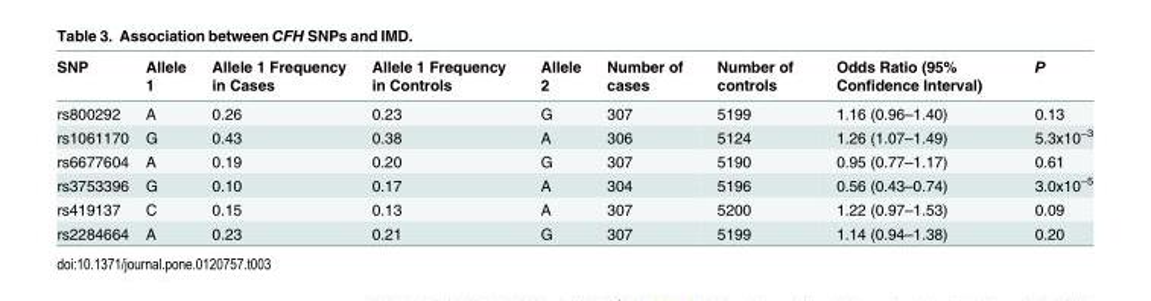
<table><thead><tr><td>SNP</td><td>Allele 1</td><td>Allele 1 Frequency in Cases</td><td>Allele 1 Frequency in Controls</td><td>Allele 2</td><td>Number of cases</td><td>Number of controls</td><td>Odds Ratio (95% Confidence Interval)</td><td>P</td></tr></thead><tbody><tr><td>rs800292</td><td>A</td><td>0.26</td><td>0.23</td><td>G</td><td>307</td><td>5199</td><td>1.16 (0.96–1.40)</td><td>0.13</td></tr><tr><td>rs1061170</td><td>G</td><td>0.43</td><td>0.38</td><td>A</td><td>306</td><td>5124</td><td>1.26 (1.07–1.49)</td><td>5.3x10<sup>−3</sup></td></tr><tr><td>rs6677604</td><td>A</td><td>0.19</td><td>0.20</td><td>G</td><td>307</td><td>5190</td><td>0.95 (0.77–1.17)</td><td>0.61</td></tr><tr><td>rs3753396</td><td>G</td><td>0.10</td><td>0.17</td><td>A</td><td>304</td><td>5196</td><td>0.56 (0.43–0.74)</td><td>3.0x10<sup>−5</sup></td></tr><tr><td>rs419137</td><td>C</td><td>0.15</td><td>0.13</td><td>A</td><td>307</td><td>5200</td><td>1.22 (0.97–1.53)</td><td>0.09</td></tr><tr><td>rs2284664</td><td>A</td><td>0.23</td><td>0.21</td><td>G</td><td>307</td><td>5199</td><td>1.14 (0.94–1.38)</td><td>0.20</td></tr></tbody></table>